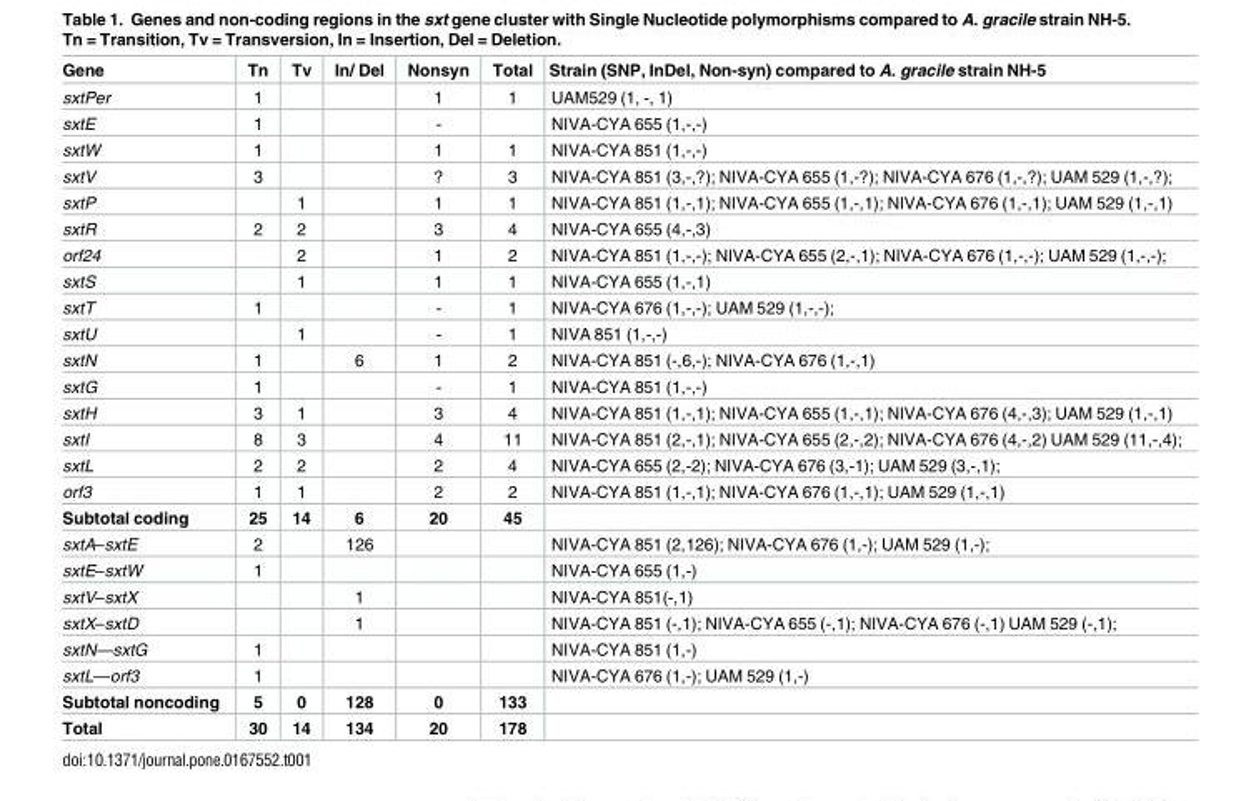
<table><thead><tr><td>Gene</td><td>Tn</td><td>Tv</td><td>In/ Del</td><td>Nonsyn</td><td>Total</td><td>Strain (SNP, InDel, Non-syn) compared to A. gracile strain NH-5</td></tr></thead><tbody><tr><td>sxtPer</td><td>1</td><td></td><td></td><td>1</td><td>1</td><td>UAM529 (1, -, 1)</td></tr><tr><td>sxtE</td><td>1</td><td></td><td></td><td>-</td><td></td><td>NIVA-CYA 655 (1,-,-)</td></tr><tr><td>sxtW</td><td>1</td><td></td><td></td><td>1</td><td>1</td><td>NIVA-CYA 851 (1,-,-)</td></tr><tr><td>sxtV</td><td>3</td><td></td><td></td><td>?</td><td>3</td><td>NIVA-CYA 851 (3,-,?); NIVA-CYA 655 (1,-?); NIVA-CYA 676 (1,-,?); UAM 529 (1,-,?);</td></tr><tr><td>sxtP</td><td></td><td>1</td><td></td><td>1</td><td>1</td><td>NIVA-CYA 851 (1,-,1); NIVA-CYA 655 (1,-,1); NIVA-CYA 676 (1,-,1); UAM 529 (1,-,1)</td></tr><tr><td>sxtR</td><td>2</td><td>2</td><td></td><td>3</td><td>4</td><td>NIVA-CYA 655 (4,-,3)</td></tr><tr><td>orf24</td><td></td><td>2</td><td></td><td>1</td><td>2</td><td>NIVA-CYA 851 (1,-,-); NIVA-CYA 655 (2,-,1); NIVA-CYA 676 (1,-,-); UAM 529 (1,-,-);</td></tr><tr><td>sxtS</td><td></td><td>1</td><td></td><td>1</td><td>1</td><td>NIVA-CYA 655 (1,-,1)</td></tr><tr><td>sxtT</td><td>1</td><td></td><td></td><td>-</td><td>1</td><td>NIVA-CYA 676 (1,-,-); UAM 529 (1,-,-);</td></tr><tr><td>sxtU</td><td></td><td>1</td><td></td><td>-</td><td>1</td><td>NIVA 851 (1,-,-)</td></tr><tr><td>sxtN</td><td>1</td><td></td><td>6</td><td>1</td><td>2</td><td>NIVA-CYA 851 (-,6,-); NIVA-CYA 676 (1,-,1)</td></tr><tr><td>sxtG</td><td>1</td><td></td><td></td><td>-</td><td>1</td><td>NIVA-CYA 851 (1,-,-)</td></tr><tr><td>sxtH</td><td>3</td><td>1</td><td></td><td>3</td><td>4</td><td>NIVA-CYA 851 (1,-,1); NIVA-CYA 655 (1,-,1); NIVA-CYA 676 (4,-,3); UAM 529 (1,-,1)</td></tr><tr><td>sxtI</td><td>8</td><td>3</td><td></td><td>4</td><td>11</td><td>NIVA-CYA 851 (2,-,1); NIVA-CYA 655 (2,-,2); NIVA-CYA 676 (4,-,2) UAM 529 (11,-,4);</td></tr><tr><td>sxtL</td><td>2</td><td>2</td><td></td><td>2</td><td>4</td><td>NIVA-CYA 655 (2,-2); NIVA-CYA 676 (3,-1); UAM 529 (3,-,1);</td></tr><tr><td>orf3</td><td>1</td><td>1</td><td></td><td>2</td><td>2</td><td>NIVA-CYA 851 (1,-,1); NIVA-CYA 676 (1,-,1); UAM 529 (1,-,1)</td></tr><tr><td>Subtotal coding</td><td>25</td><td>14</td><td>6</td><td>20</td><td>45</td><td></td></tr><tr><td>sxtA–sxtE</td><td>2</td><td></td><td>126</td><td></td><td></td><td>NIVA-CYA 851 (2,126); NIVA-CYA 676 (1,-); UAM 529 (1,-);</td></tr><tr><td>sxtE–sxtW</td><td>1</td><td></td><td></td><td></td><td></td><td>NIVA-CYA 655 (1,-)</td></tr><tr><td>sxtV–sxtX</td><td></td><td></td><td>1</td><td></td><td></td><td>NIVA-CYA 851(-,1)</td></tr><tr><td>sxtX–sxtD</td><td></td><td></td><td>1</td><td></td><td></td><td>NIVA-CYA 851 (-,1); NIVA-CYA 655 (-,1); NIVA-CYA 676 (-,1) UAM 529 (-,1);</td></tr><tr><td>sxtN—sxtG</td><td>1</td><td></td><td></td><td></td><td></td><td>NIVA-CYA 851 (1,-)</td></tr><tr><td>sxtL—orf3</td><td>1</td><td></td><td></td><td></td><td></td><td>NIVA-CYA 676 (1,-); UAM 529 (1,-)</td></tr><tr><td>Subtotal noncoding</td><td>5</td><td>0</td><td>128</td><td>0</td><td>133</td><td></td></tr><tr><td>Total</td><td>30</td><td>14</td><td>134</td><td>20</td><td>178</td><td></td></tr></tbody></table>